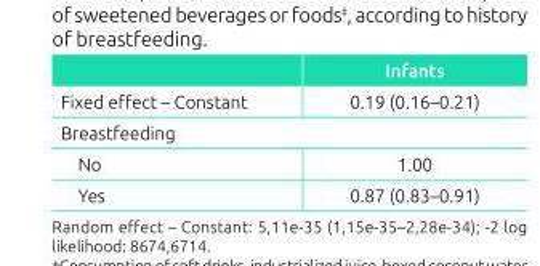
<table><thead><tr><td></td><td>Infants</td></tr></thead><tbody><tr><td>Fixed effect – Constant</td><td>0.19 (0.16–0.21)</td></tr><tr><td colspan="2">Breastfeeding</td></tr><tr><td>No</td><td>1.00</td></tr><tr><td>Yes</td><td>0.87 (0.83–0.91)</td></tr></tbody></table>